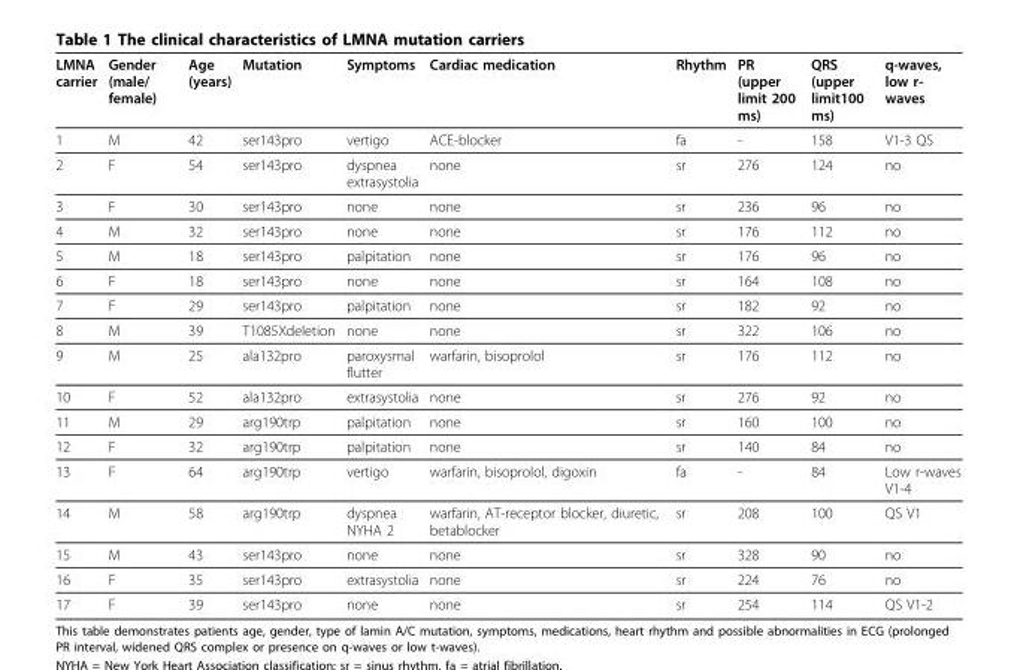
<table><thead><tr><td>LMNA carrier</td><td>Gender (male/ female)</td><td>Age (years)</td><td>Mutation</td><td>Symptoms</td><td>Cardiac medication</td><td>Rhythm</td><td>PR (upper limit 200 ms)</td><td>QRS (upper limit100 ms)</td><td>q-waves, low r- waves</td></tr></thead><tbody><tr><td>1</td><td>M</td><td>42</td><td>ser143pro</td><td>vertigo</td><td>ACE-blocker</td><td>fa</td><td>-</td><td>158</td><td>V1-3 QS</td></tr><tr><td>2</td><td>F</td><td>54</td><td>ser143pro</td><td>dyspnea extrasystolia</td><td>none</td><td>sr</td><td>276</td><td>124</td><td>no</td></tr><tr><td>3</td><td>F</td><td>30</td><td>ser143pro</td><td>none</td><td>none</td><td>sr</td><td>236</td><td>96</td><td>no</td></tr><tr><td>4</td><td>M</td><td>32</td><td>ser143pro</td><td>none</td><td>none</td><td>sr</td><td>176</td><td>112</td><td>no</td></tr><tr><td>5</td><td>M</td><td>18</td><td>ser143pro</td><td>palpitation</td><td>none</td><td>sr</td><td>176</td><td>96</td><td>no</td></tr><tr><td>6</td><td>F</td><td>18</td><td>ser143pro</td><td>none</td><td>none</td><td>sr</td><td>164</td><td>108</td><td>no</td></tr><tr><td>7</td><td>F</td><td>29</td><td>ser143pro</td><td>palpitation</td><td>none</td><td>sr</td><td>182</td><td>92</td><td>no</td></tr><tr><td>8</td><td>M</td><td>39</td><td>T1085Xdeletion</td><td>none</td><td>none</td><td>sr</td><td>322</td><td>106</td><td>no</td></tr><tr><td>9</td><td>M</td><td>25</td><td>ala132pro</td><td>paroxysmal flutter</td><td>warfarin, bisoprolol</td><td>sr</td><td>176</td><td>112</td><td>no</td></tr><tr><td>10</td><td>F</td><td>52</td><td>ala132pro</td><td>extrasystolia</td><td>none</td><td>sr</td><td>276</td><td>92</td><td>no</td></tr><tr><td>11</td><td>M</td><td>29</td><td>arg190trp</td><td>palpitation</td><td>none</td><td>sr</td><td>160</td><td>100</td><td>no</td></tr><tr><td>12</td><td>F</td><td>32</td><td>arg190trp</td><td>palpitation</td><td>none</td><td>sr</td><td>140</td><td>84</td><td>no</td></tr><tr><td>13</td><td>F</td><td>64</td><td>arg190trp</td><td>vertigo</td><td>warfarin, bisoprolol, digoxin</td><td>fa</td><td>-</td><td>84</td><td>Low r-waves V1-4</td></tr><tr><td>14</td><td>M</td><td>58</td><td>arg190trp</td><td>dyspnea NYHA 2</td><td>warfarin, AT-receptor blocker, diuretic, betablocker</td><td>sr</td><td>208</td><td>100</td><td>QS V1</td></tr><tr><td>15</td><td>M</td><td>43</td><td>ser143pro</td><td>none</td><td>none</td><td>sr</td><td>328</td><td>90</td><td>no</td></tr><tr><td>16</td><td>F</td><td>35</td><td>ser143pro</td><td>extrasystolia</td><td>none</td><td>sr</td><td>224</td><td>76</td><td>no</td></tr><tr><td>17</td><td>F</td><td>39</td><td>ser143pro</td><td>none</td><td>none</td><td>sr</td><td>254</td><td>114</td><td>QS V1-2</td></tr></tbody></table>